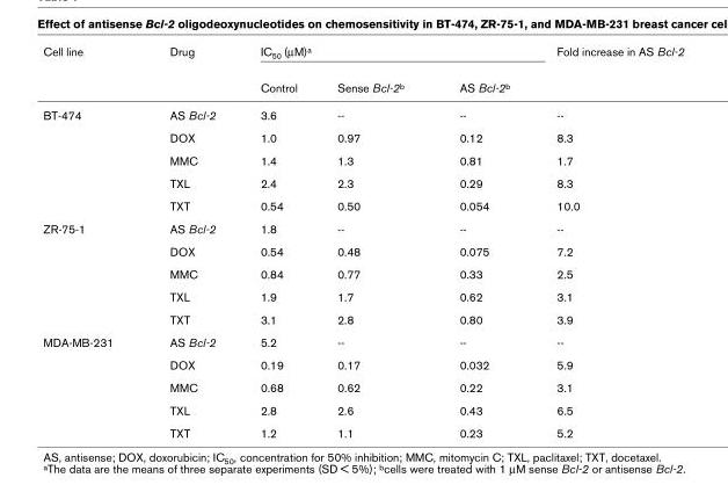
<table><thead><tr><td rowspan="2">Cell line</td><td rowspan="2">Drug</td><td colspan="3">IC50 (µM)a</td><td rowspan="2">Fold increase in AS Bcl-2</td></tr><tr><td>Control</td><td>Sense Bcl-2b</td><td>AS Bcl-2b</td></tr></thead><tbody><tr><td rowspan="5">BT-474</td><td>AS Bcl-2</td><td>3.6</td><td>--</td><td>--</td><td>--</td></tr><tr><td>DOX</td><td>1.0</td><td>0.97</td><td>0.12</td><td>8.3</td></tr><tr><td>MMC</td><td>1.4</td><td>1.3</td><td>0.81</td><td>1.7</td></tr><tr><td>TXL</td><td>2.4</td><td>2.3</td><td>0.29</td><td>8.3</td></tr><tr><td>TXT</td><td>0.54</td><td>0.50</td><td>0.054</td><td>10.0</td></tr><tr><td rowspan="5">ZR-75-1</td><td>AS Bcl-2</td><td>1.8</td><td>--</td><td>--</td><td>--</td></tr><tr><td>DOX</td><td>0.54</td><td>0.48</td><td>0.075</td><td>7.2</td></tr><tr><td>MMC</td><td>0.84</td><td>0.77</td><td>0.33</td><td>2.5</td></tr><tr><td>TXL</td><td>1.9</td><td>1.7</td><td>0.62</td><td>3.1</td></tr><tr><td>TXT</td><td>3.1</td><td>2.8</td><td>0.80</td><td>3.9</td></tr><tr><td rowspan="5">MDA-MB-231</td><td>AS Bcl-2</td><td>5.2</td><td>--</td><td>--</td><td>--</td></tr><tr><td>DOX</td><td>0.19</td><td>0.17</td><td>0.032</td><td>5.9</td></tr><tr><td>MMC</td><td>0.68</td><td>0.62</td><td>0.22</td><td>3.1</td></tr><tr><td>TXL</td><td>2.8</td><td>2.6</td><td>0.43</td><td>6.5</td></tr><tr><td>TXT</td><td>1.2</td><td>1.1</td><td>0.23</td><td>5.2</td></tr></tbody></table>